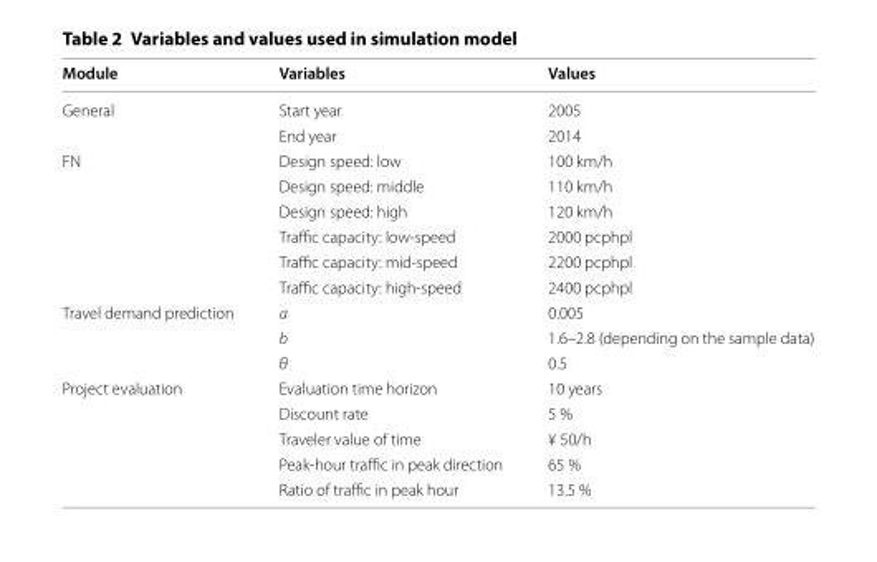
<table><thead><tr><td>Module</td><td>Variables</td><td>Values</td></tr></thead><tbody><tr><td rowspan="2">General</td><td>Start year</td><td>2005</td></tr><tr><td>End year</td><td>2014</td></tr><tr><td rowspan="6">FN</td><td>Design speed: low</td><td>100 km/h</td></tr><tr><td>Design speed: middle</td><td>110 km/h</td></tr><tr><td>Design speed: high</td><td>120 km/h</td></tr><tr><td>Traffic capacity: low-speed</td><td>2000 pcphpl</td></tr><tr><td>Traffic capacity: mid-speed</td><td>2200 pcphpl</td></tr><tr><td>Traffic capacity: high-speed</td><td>2400 pcphpl</td></tr><tr><td rowspan="3">Travel demand prediction</td><td>a</td><td>0.005</td></tr><tr><td>b</td><td>1.6–2.8 (depending on the sample data)</td></tr><tr><td>θ</td><td>0.5</td></tr><tr><td rowspan="5">Project evaluation</td><td>Evaluation time horizon</td><td>10 years</td></tr><tr><td>Discount rate</td><td>5 %</td></tr><tr><td>Traveler value of time</td><td>¥ 50/h</td></tr><tr><td>Peak-hour traffic in peak direction</td><td>65 %</td></tr><tr><td>Ratio of traffic in peak hour</td><td>13.5 %</td></tr></tbody></table>